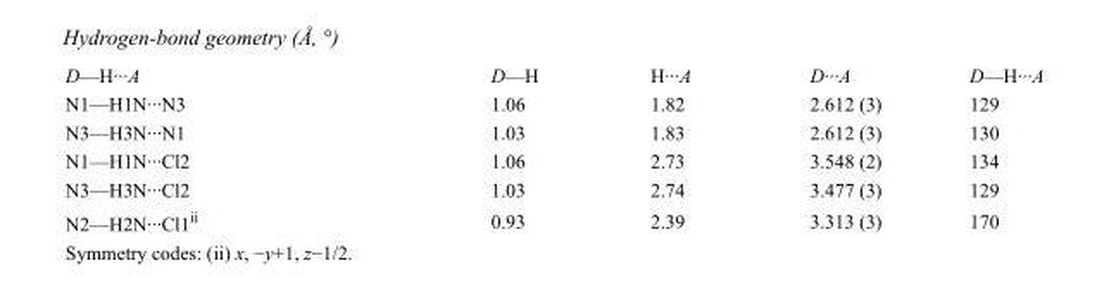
<table><tbody><tr><td>D—H···A</td><td>D—H</td><td>H···A</td><td>D···A</td><td>D—H···A</td></tr><tr><td>N1—H1N···N3</td><td>1.06</td><td>1.82</td><td>2.612 (3)</td><td>129</td></tr><tr><td>N3—H3N···N1</td><td>1.03</td><td>1.83</td><td>2.612 (3)</td><td>130</td></tr><tr><td>N1—H1N···Cl2</td><td>1.06</td><td>2.73</td><td>3.548 (2)</td><td>134</td></tr><tr><td>N3—H3N···Cl2</td><td>1.03</td><td>2.74</td><td>3.477 (3)</td><td>129</td></tr><tr><td>N2—H2N···Cl1<sup>ii</sup></td><td>0.93</td><td>2.39</td><td>3.313 (3)</td><td>170</td></tr></tbody></table>